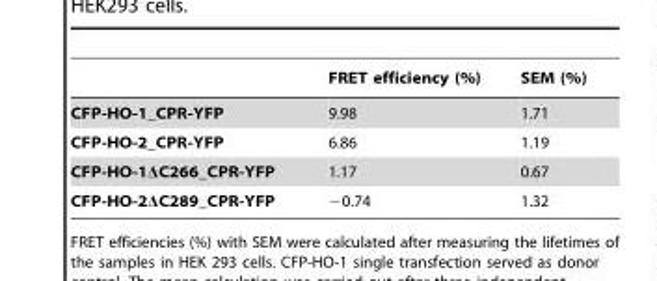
<table><thead><tr><td></td><td>FRET efficiency (%)</td><td>SEM (%)</td></tr></thead><tbody><tr><td>CFP-HO-1_CPR-YFP</td><td>9.98</td><td>1.71</td></tr><tr><td>CFP-HO-2_CPR-YFP</td><td>6.86</td><td>1.19</td></tr><tr><td>CFP-HO-1ΔC266_CPR-YFP</td><td>1.17</td><td>0.67</td></tr><tr><td>CFP-HO-2ΔC289_CPR-YFP</td><td>−0.74</td><td>1.32</td></tr></tbody></table>